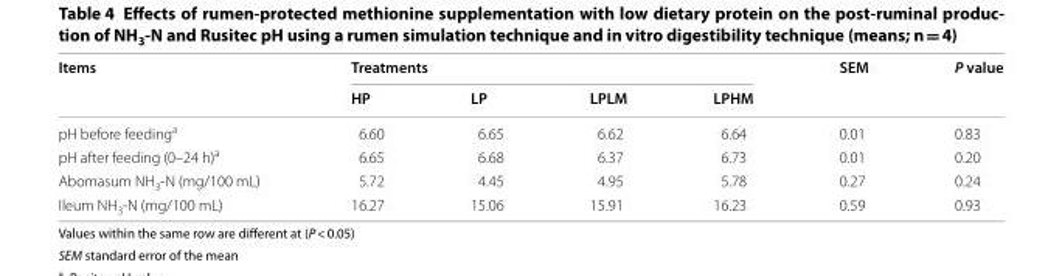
<table><thead><tr><td rowspan="2">Items</td><td colspan="4">Treatments</td><td rowspan="2">SEM</td><td rowspan="2">P value</td></tr><tr><td>HP</td><td>LP</td><td>LPLM</td><td>LPHM</td></tr></thead><tbody><tr><td>pH before feeding<sup>a</sup></td><td>6.60</td><td>6.65</td><td>6.62</td><td>6.64</td><td>0.01</td><td>0.83</td></tr><tr><td>pH after feeding (0–24 h)<sup>a</sup></td><td>6.65</td><td>6.68</td><td>6.37</td><td>6.73</td><td>0.01</td><td>0.20</td></tr><tr><td>Abomasum NH<sub>3</sub>‑N (mg/100 mL)</td><td>5.72</td><td>4.45</td><td>4.95</td><td>5.78</td><td>0.27</td><td>0.24</td></tr><tr><td>Ileum NH<sub>3</sub>‑N (mg/100 mL)</td><td>16.27</td><td>15.06</td><td>15.91</td><td>16.23</td><td>0.59</td><td>0.93</td></tr></tbody></table>